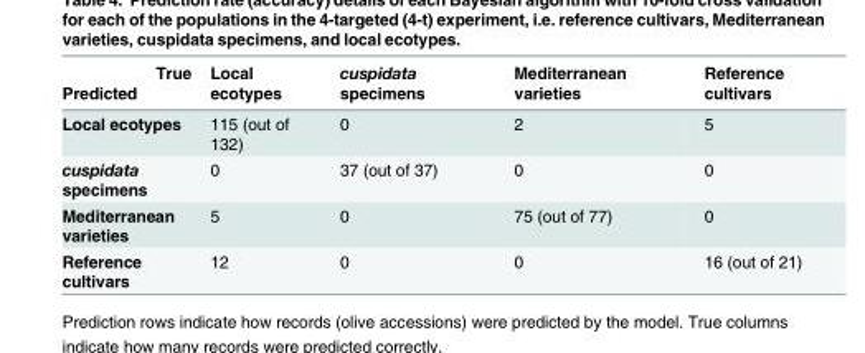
<table><thead><tr><td rowspan="2">Predicted</td><td rowspan="2">True</td><td rowspan="2">Local ecotypes</td><td rowspan="2">cuspidata specimens</td><td rowspan="2">Mediterranean varieties</td><td rowspan="2">Reference cultivars</td></tr><tr></tr></thead><tbody><tr><td colspan="2">Local ecotypes</td><td>115 (out of 132)</td><td>0</td><td>2</td><td>5</td></tr><tr><td colspan="2">cuspidata specimens</td><td>0</td><td>37 (out of 37)</td><td>0</td><td>0</td></tr><tr><td colspan="2">Mediterranean varieties</td><td>5</td><td>0</td><td>75 (out of 77)</td><td>0</td></tr><tr><td colspan="2">Reference cultivars</td><td>12</td><td>0</td><td>0</td><td>16 (out of 21)</td></tr></tbody></table>